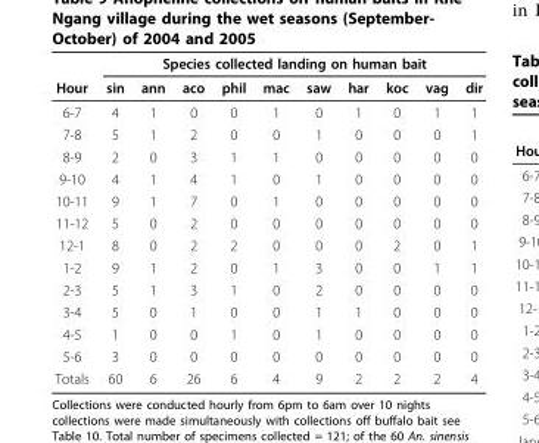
<table><thead><tr><td rowspan="2">Hour</td><td colspan="10">Species collected landing on human bait</td></tr><tr><td>sin</td><td>ann</td><td>aco</td><td>phil</td><td>mac</td><td>saw</td><td>har</td><td>koc</td><td>vag</td><td>dir</td></tr></thead><tbody><tr><td>6-7</td><td>4</td><td>1</td><td>0</td><td>0</td><td>1</td><td>0</td><td>1</td><td>0</td><td>1</td><td>1</td></tr><tr><td>7-8</td><td>5</td><td>1</td><td>2</td><td>0</td><td>0</td><td>1</td><td>0</td><td>0</td><td>0</td><td>1</td></tr><tr><td>8-9</td><td>2</td><td>0</td><td>3</td><td>1</td><td>1</td><td>0</td><td>0</td><td>0</td><td>0</td><td>0</td></tr><tr><td>9-10</td><td>4</td><td>1</td><td>4</td><td>1</td><td>0</td><td>1</td><td>0</td><td>0</td><td>0</td><td>0</td></tr><tr><td>10-11</td><td>9</td><td>1</td><td>7</td><td>0</td><td>1</td><td>0</td><td>0</td><td>0</td><td>0</td><td>0</td></tr><tr><td>11-12</td><td>5</td><td>0</td><td>2</td><td>0</td><td>0</td><td>0</td><td>0</td><td>0</td><td>0</td><td>0</td></tr><tr><td>12-1</td><td>8</td><td>0</td><td>2</td><td>2</td><td>0</td><td>0</td><td>0</td><td>2</td><td>0</td><td>1</td></tr><tr><td>1-2</td><td>9</td><td>1</td><td>2</td><td>0</td><td>1</td><td>3</td><td>0</td><td>0</td><td>1</td><td>1</td></tr><tr><td>2-3</td><td>5</td><td>1</td><td>3</td><td>1</td><td>0</td><td>2</td><td>0</td><td>0</td><td>0</td><td>0</td></tr><tr><td>3-4</td><td>5</td><td>0</td><td>1</td><td>0</td><td>0</td><td>1</td><td>1</td><td>0</td><td>0</td><td>0</td></tr><tr><td>4-5</td><td>1</td><td>0</td><td>0</td><td>1</td><td>0</td><td>1</td><td>0</td><td>0</td><td>0</td><td>0</td></tr><tr><td>5-6</td><td>3</td><td>0</td><td>0</td><td>0</td><td>0</td><td>0</td><td>0</td><td>0</td><td>0</td><td>0</td></tr><tr><td>Totals</td><td>60</td><td>6</td><td>26</td><td>6</td><td>4</td><td>9</td><td>2</td><td>2</td><td>2</td><td>4</td></tr></tbody></table>